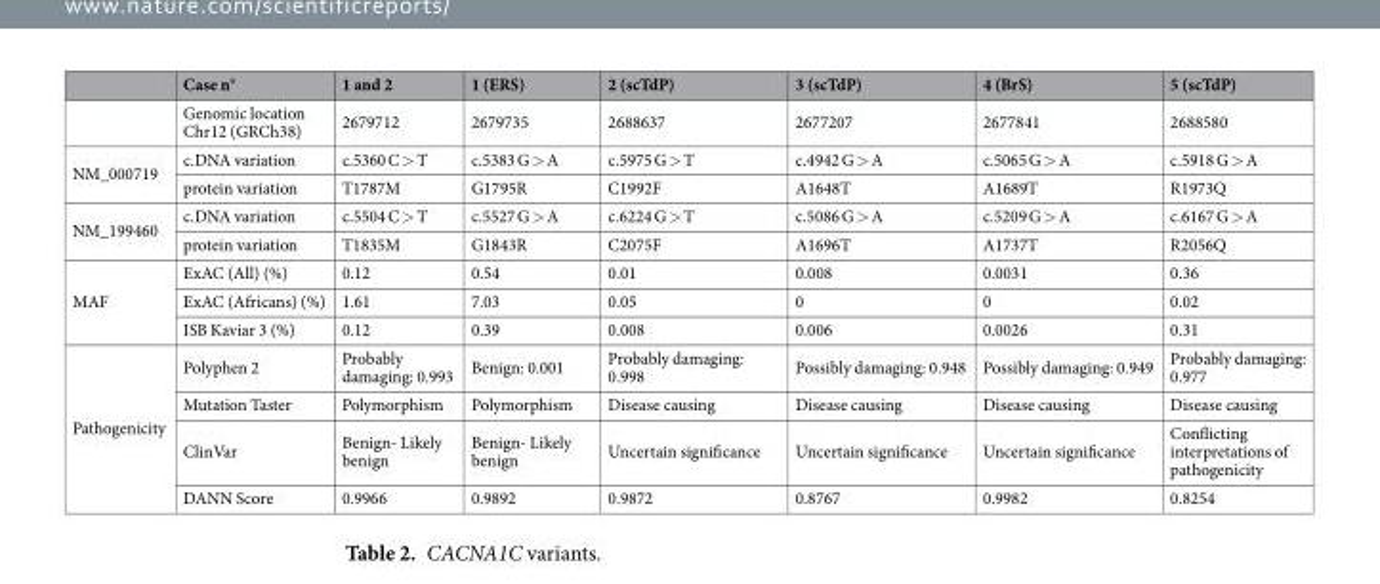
<table><thead><tr><td></td><td>Case n°</td><td>1 and 2</td><td>1 (ERS)</td><td>2 (scTdP)</td><td>3 (scTdP)</td><td>4 (BrS)</td><td>5 (scTdP)</td></tr></thead><tbody><tr><td></td><td>Genomic location Chr12 (GRCh38)</td><td>2679712</td><td>2679735</td><td>2688637</td><td>2677207</td><td>2677841</td><td>2688580</td></tr><tr><td rowspan="2">NM_000719</td><td>c.DNA variation</td><td>c.5360 C &gt; T</td><td>c.5383 G &gt; A</td><td>c.5975 G &gt; T</td><td>c.4942 G &gt; A</td><td>c.5065 G &gt; A</td><td>c.5918 G &gt; A</td></tr><tr><td>protein variation</td><td>T1787M</td><td>G1795R</td><td>C1992F</td><td>A1648T</td><td>A1689T</td><td>R1973Q</td></tr><tr><td rowspan="2">NM_199460</td><td>c.DNA variation</td><td>c.5504 C &gt; T</td><td>c.5527 G &gt; A</td><td>c.6224 G &gt; T</td><td>c.5086 G &gt; A</td><td>c.5209 G &gt; A</td><td>c.6167 G &gt; A</td></tr><tr><td>protein variation</td><td>T1835M</td><td>G1843R</td><td>C2075F</td><td>A1696T</td><td>A1737T</td><td>R2056Q</td></tr><tr><td rowspan="3">MAF</td><td>ExAC (All) (%)</td><td>0.12</td><td>0.54</td><td>0.01</td><td>0.008</td><td>0.0031</td><td>0.36</td></tr><tr><td>ExAC (Africans) (%)</td><td>1.61</td><td>7.03</td><td>0.05</td><td>0</td><td>0</td><td>0.02</td></tr><tr><td>ISB Kaviar 3 (%)</td><td>0.12</td><td>0.39</td><td>0.008</td><td>0.006</td><td>0.0026</td><td>0.31</td></tr><tr><td rowspan="4">Pathogenicity</td><td>Polyphen 2</td><td>Probably damaging: 0.993</td><td>Benign: 0.001</td><td>Probably damaging: 0.998</td><td>Possibly damaging: 0.948</td><td>Possibly damaging: 0.949</td><td>Probably damaging: 0.977</td></tr><tr><td>Mutation Taster</td><td>Polymorphism</td><td>Polymorphism</td><td>Disease causing</td><td>Disease causing</td><td>Disease causing</td><td>Disease causing</td></tr><tr><td>ClinVar</td><td>Benign- Likely benign</td><td>Benign- Likely benign</td><td>Uncertain significance</td><td>Uncertain significance</td><td>Uncertain significance</td><td>Conflicting interpretations of pathogenicity</td></tr><tr><td>DANN Score</td><td>0.9966</td><td>0.9892</td><td>0.9872</td><td>0.8767</td><td>0.9982</td><td>0.8254</td></tr></tbody></table>